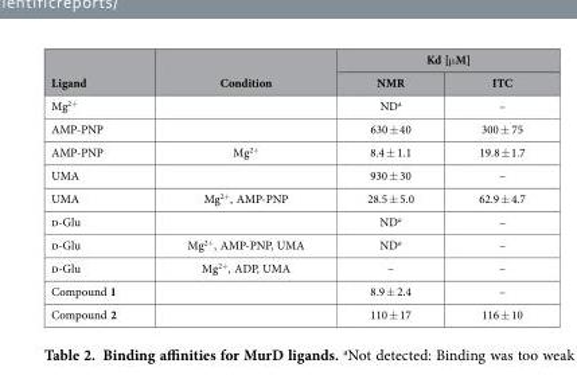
<table><thead><tr><td rowspan="2">Ligand</td><td rowspan="2">Condition</td><td colspan="2">Kd [μ M]</td></tr><tr><td>NMR</td><td>ITC</td></tr></thead><tbody><tr><td>Mg<sup>2+</sup></td><td></td><td>ND<sup>a</sup></td><td>–</td></tr><tr><td>AMP-PNP</td><td></td><td>630 ± 40</td><td>300 ± 75</td></tr><tr><td>AMP-PNP</td><td>Mg<sup>2+</sup></td><td>8.4 ± 1.1</td><td>19.8 ± 1.7</td></tr><tr><td>UMA</td><td></td><td>930 ± 30</td><td>–</td></tr><tr><td>UMA</td><td>Mg<sup>2+</sup>, AMP-PNP</td><td>28.5 ± 5.0</td><td>62.9 ± 4.7</td></tr><tr><td>d-Glu</td><td></td><td>ND<sup>a</sup></td><td>–</td></tr><tr><td>d-Glu</td><td>Mg<sup>2+</sup>, AMP-PNP, UMA</td><td>ND<sup>a</sup></td><td>–</td></tr><tr><td>d-Glu</td><td>Mg<sup>2+</sup>, ADP, UMA</td><td>–</td><td>–</td></tr><tr><td>Compound 1</td><td></td><td>8.9 ± 2.4</td><td>–</td></tr><tr><td>Compound 2</td><td></td><td>110 ± 17</td><td>116 ± 10</td></tr></tbody></table>